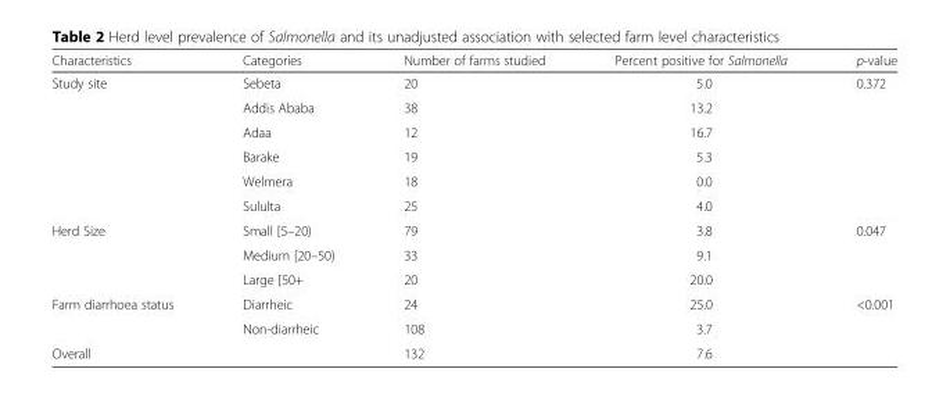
<table><thead><tr><td>Characteristics</td><td>Categories</td><td>Number of farms studied</td><td>Percent positive for Salmonella</td><td>p-value</td></tr></thead><tbody><tr><td rowspan="6">Study site</td><td>Sebeta</td><td>20</td><td>5.0</td><td>0.372</td></tr><tr><td>Addis Ababa</td><td>38</td><td>13.2</td><td></td></tr><tr><td>Adaa</td><td>12</td><td>16.7</td><td></td></tr><tr><td>Barake</td><td>19</td><td>5.3</td><td></td></tr><tr><td>Welmera</td><td>18</td><td>0.0</td><td></td></tr><tr><td>Sululta</td><td>25</td><td>4.0</td><td></td></tr><tr><td rowspan="3">Herd Size</td><td>Small [5–20)</td><td>79</td><td>3.8</td><td>0.047</td></tr><tr><td>Medium [20–50)</td><td>33</td><td>9.1</td><td></td></tr><tr><td>Large [50+</td><td>20</td><td>20.0</td><td></td></tr><tr><td rowspan="2">Farm diarrhoea status</td><td>Diarrheic</td><td>24</td><td>25.0</td><td>&lt;0.001</td></tr><tr><td>Non-diarrheic</td><td>108</td><td>3.7</td><td></td></tr><tr><td>Overall</td><td></td><td>132</td><td>7.6</td><td></td></tr></tbody></table>